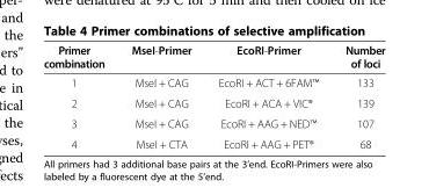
<table><thead><tr><td>Primer combination</td><td>MseI-Primer</td><td>EcoRI-Primer</td><td>Number of loci</td></tr></thead><tbody><tr><td>1</td><td>MseI + CAG</td><td>EcoRI + ACT + 6FAM™</td><td>133</td></tr><tr><td>2</td><td>MseI + CAG</td><td>EcoRI + ACA + VIC®</td><td>139</td></tr><tr><td>3</td><td>MseI + CAG</td><td>EcoRI + AAG + NED™</td><td>107</td></tr><tr><td>4</td><td>MseI + CTA</td><td>EcoRI + AAG + PET®</td><td>68</td></tr></tbody></table>